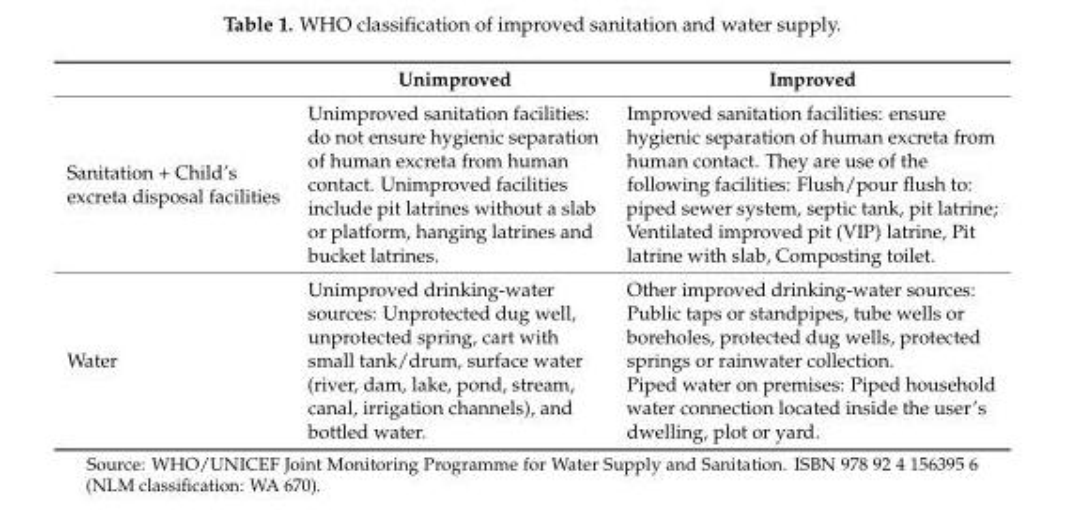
<table><thead><tr><td></td><td>Unimproved</td><td>Improved</td></tr></thead><tbody><tr><td>Sanitation + Child’s excreta disposal facilities</td><td>Unimproved sanitation facilities: do not ensure hygienic separation of human excreta from human contact. Unimproved facilities include pit latrines without a slab or platform, hanging latrines and bucket latrines.</td><td>Improved sanitation facilities: ensure hygienic separation of human excreta from human contact. They are use of the following facilities: Flush/pour flush to: piped sewer system, septic tank, pit latrine; Ventilated improved pit (VIP) latrine, Pit latrine with slab, Composting toilet.</td></tr><tr><td>Water</td><td>Unimproved drinking-water sources: Unprotected dug well, unprotected spring, cart with small tank/drum, surface water (river, dam, lake, pond, stream, canal, irrigation channels), and bottled water.</td><td>Other improved drinking-water sources: Public taps or standpipes, tube wells or boreholes, protected dug wells, protected springs or rainwater collection. Piped water on premises: Piped household water connection located inside the user’s dwelling, plot or yard.</td></tr></tbody></table>